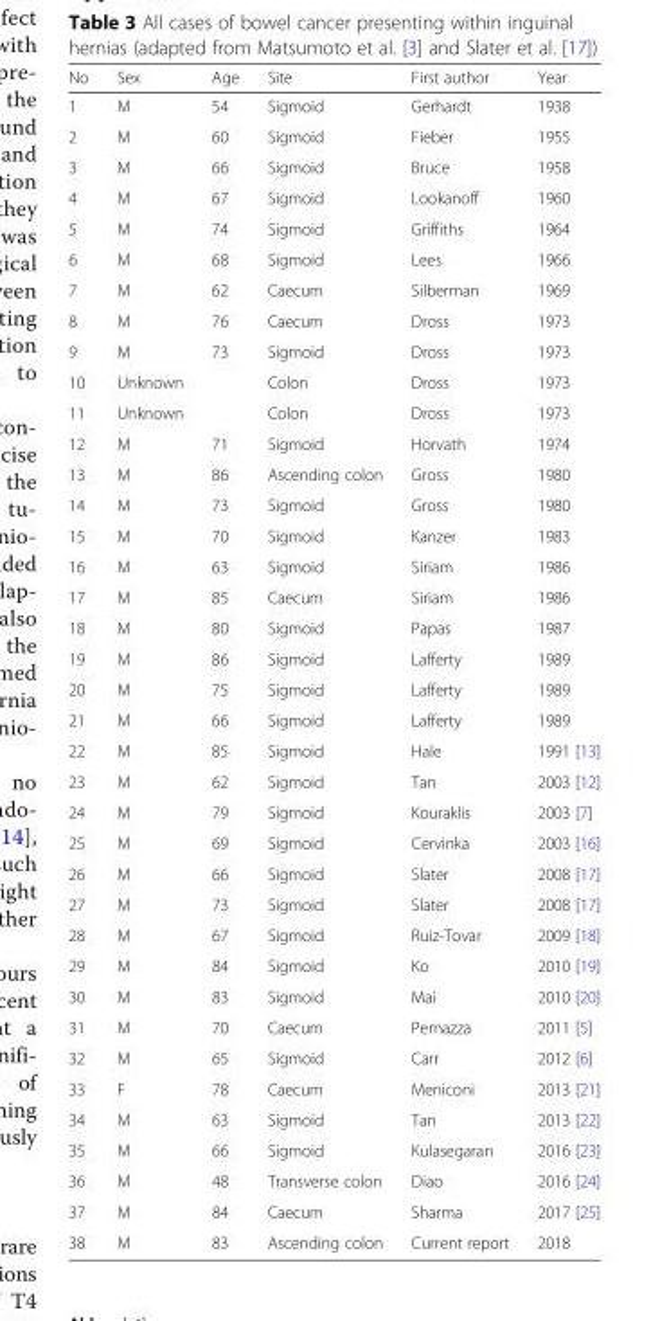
<table><thead><tr><td>No</td><td>Sex</td><td>Age</td><td>Site</td><td>First author</td><td>Year</td></tr></thead><tbody><tr><td>1</td><td>M</td><td>54</td><td>Sigmoid</td><td>Gerhardt</td><td>1938</td></tr><tr><td>2</td><td>M</td><td>60</td><td>Sigmoid</td><td>Fieber</td><td>1955</td></tr><tr><td>3</td><td>M</td><td>66</td><td>Sigmoid</td><td>Bruce</td><td>1958</td></tr><tr><td>4</td><td>M</td><td>67</td><td>Sigmoid</td><td>Lookanoff</td><td>1960</td></tr><tr><td>5</td><td>M</td><td>74</td><td>Sigmoid</td><td>Griffiths</td><td>1964</td></tr><tr><td>6</td><td>M</td><td>68</td><td>Sigmoid</td><td>Lees</td><td>1966</td></tr><tr><td>7</td><td>M</td><td>62</td><td>Caecum</td><td>Silberman</td><td>1969</td></tr><tr><td>8</td><td>M</td><td>76</td><td>Caecum</td><td>Dross</td><td>1973</td></tr><tr><td>9</td><td>M</td><td>73</td><td>Sigmoid</td><td>Dross</td><td>1973</td></tr><tr><td>10</td><td>Unknown</td><td></td><td>Colon</td><td>Dross</td><td>1973</td></tr><tr><td>11</td><td>Unknown</td><td></td><td>Colon</td><td>Dross</td><td>1973</td></tr><tr><td>12</td><td>M</td><td>71</td><td>Sigmoid</td><td>Horvath</td><td>1974</td></tr><tr><td>13</td><td>M</td><td>86</td><td>Ascending colon</td><td>Gross</td><td>1980</td></tr><tr><td>14</td><td>M</td><td>73</td><td>Sigmoid</td><td>Gross</td><td>1980</td></tr><tr><td>15</td><td>M</td><td>70</td><td>Sigmoid</td><td>Kanzer</td><td>1983</td></tr><tr><td>16</td><td>M</td><td>63</td><td>Sigmoid</td><td>Siriam</td><td>1986</td></tr><tr><td>17</td><td>M</td><td>85</td><td>Caecum</td><td>Siriam</td><td>1986</td></tr><tr><td>18</td><td>M</td><td>80</td><td>Sigmoid</td><td>Papas</td><td>1987</td></tr><tr><td>19</td><td>M</td><td>86</td><td>Sigmoid</td><td>Lafferty</td><td>1989</td></tr><tr><td>20</td><td>M</td><td>75</td><td>Sigmoid</td><td>Lafferty</td><td>1989</td></tr><tr><td>21</td><td>M</td><td>66</td><td>Sigmoid</td><td>Lafferty</td><td>1989</td></tr><tr><td>22</td><td>M</td><td>85</td><td>Sigmoid</td><td>Hale</td><td>1991 [13]</td></tr><tr><td>23</td><td>M</td><td>62</td><td>Sigmoid</td><td>Tan</td><td>2003 [12]</td></tr><tr><td>24</td><td>M</td><td>79</td><td>Sigmoid</td><td>Kouraklis</td><td>2003 [7]</td></tr><tr><td>25</td><td>M</td><td>69</td><td>Sigmoid</td><td>Cervinka</td><td>2003 [16]</td></tr><tr><td>26</td><td>M</td><td>66</td><td>Sigmoid</td><td>Slater</td><td>2008 [17]</td></tr><tr><td>27</td><td>M</td><td>73</td><td>Sigmoid</td><td>Slater</td><td>2008 [17]</td></tr><tr><td>28</td><td>M</td><td>67</td><td>Sigmoid</td><td>Ruiz-Tovar</td><td>2009 [18]</td></tr><tr><td>29</td><td>M</td><td>84</td><td>Sigmoid</td><td>Ko</td><td>2010 [19]</td></tr><tr><td>30</td><td>M</td><td>83</td><td>Sigmoid</td><td>Mai</td><td>2010 [20]</td></tr><tr><td>31</td><td>M</td><td>70</td><td>Caecum</td><td>Pernazza</td><td>2011 [5]</td></tr><tr><td>32</td><td>M</td><td>65</td><td>Sigmoid</td><td>Carr</td><td>2012 [6]</td></tr><tr><td>33</td><td>F</td><td>78</td><td>Caecum</td><td>Meniconi</td><td>2013 [21]</td></tr><tr><td>34</td><td>M</td><td>63</td><td>Sigmoid</td><td>Tan</td><td>2013 [22]</td></tr><tr><td>35</td><td>M</td><td>66</td><td>Sigmoid</td><td>Kulasegaran</td><td>2016 [23]</td></tr><tr><td>36</td><td>M</td><td>48</td><td>Transverse colon</td><td>Diao</td><td>2016 [24]</td></tr><tr><td>37</td><td>M</td><td>84</td><td>Caecum</td><td>Sharma</td><td>2017 [25]</td></tr><tr><td>38</td><td>M</td><td>83</td><td>Ascending colon</td><td>Current report</td><td>2018</td></tr></tbody></table>